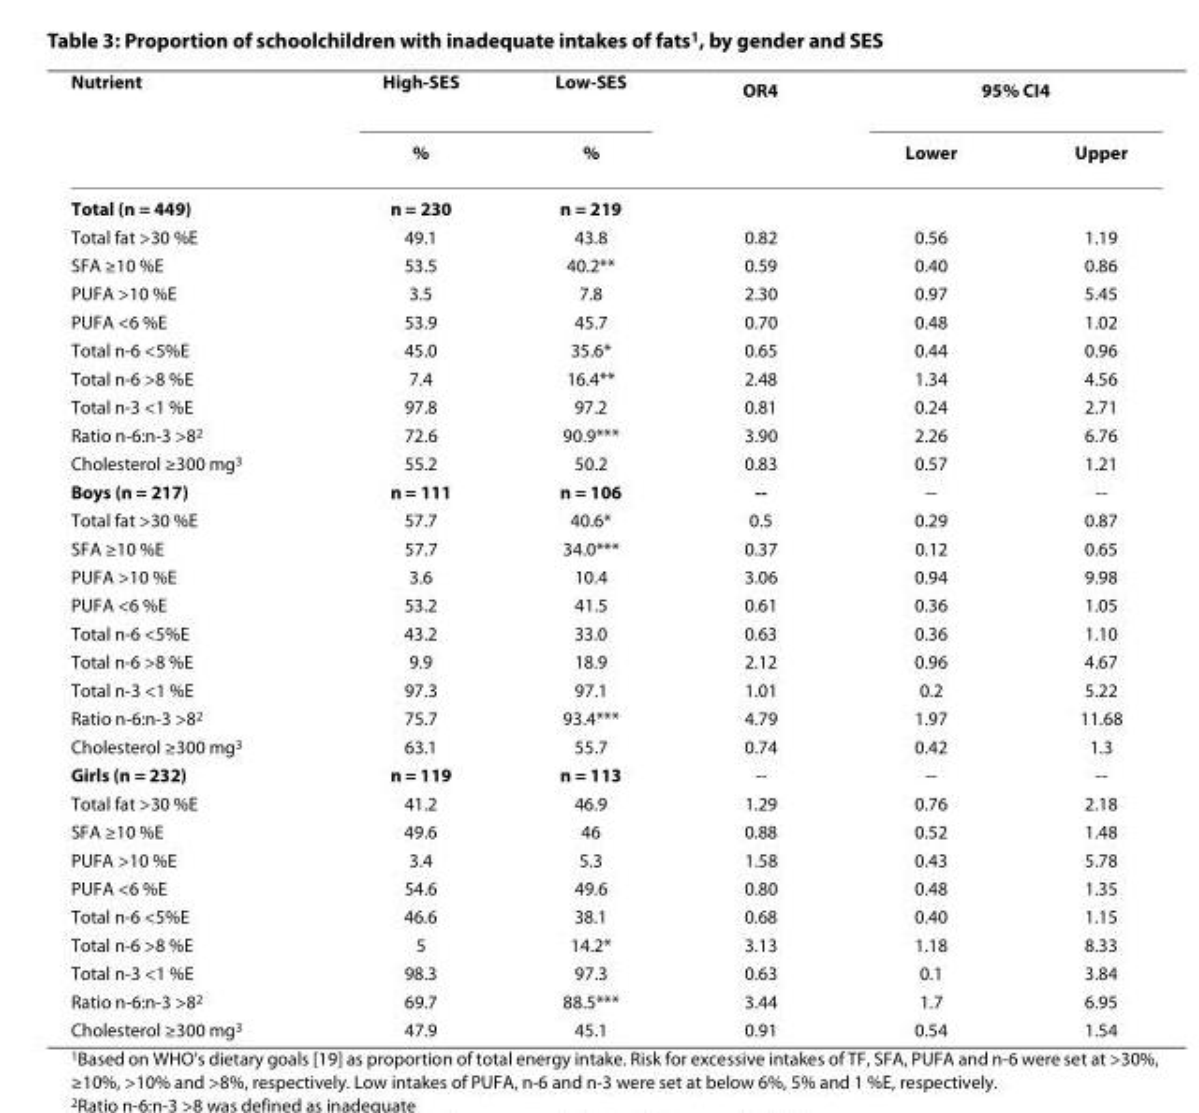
<table><thead><tr><td rowspan="2">Nutrient</td><td rowspan="2">High-SES %</td><td rowspan="2">Low-SES %</td><td rowspan="2">OR<sup>4</sup></td><td colspan="2">95% CI<sup>4</sup></td></tr><tr><td>Lower</td><td>Upper</td></tr></thead><tbody><tr><td>Total (n = 449)</td><td>n = 230</td><td>n = 219</td><td></td><td></td><td></td></tr><tr><td>Total fat &gt;30 %E</td><td>49.1</td><td>43.8</td><td>0.82</td><td>0.56</td><td>1.19</td></tr><tr><td>SFA ≥10 %E</td><td>53.5</td><td>40.2**</td><td>0.59</td><td>0.40</td><td>0.86</td></tr><tr><td>PUFA &gt;10 %E</td><td>3.5</td><td>7.8</td><td>2.30</td><td>0.97</td><td>5.45</td></tr><tr><td>PUFA &lt;6 %E</td><td>53.9</td><td>45.7</td><td>0.70</td><td>0.48</td><td>1.02</td></tr><tr><td>Total n-6 &lt;5%E</td><td>45.0</td><td>35.6*</td><td>0.65</td><td>0.44</td><td>0.96</td></tr><tr><td>Total n-6 &gt;8 %E</td><td>7.4</td><td>16.4**</td><td>2.48</td><td>1.34</td><td>4.56</td></tr><tr><td>Total n-3 &lt;1 %E</td><td>97.8</td><td>97.2</td><td>0.81</td><td>0.24</td><td>2.71</td></tr><tr><td>Ratio n-6:n-3 &gt;8<sup>2</sup></td><td>72.6</td><td>90.9***</td><td>3.90</td><td>2.26</td><td>6.76</td></tr><tr><td>Cholesterol ≥300 mg<sup>3</sup></td><td>55.2</td><td>50.2</td><td>0.83</td><td>0.57</td><td>1.21</td></tr><tr><td>Boys (n = 217)</td><td>n = 111</td><td>n = 106</td><td>--</td><td>--</td><td>--</td></tr><tr><td>Total fat &gt;30 %E</td><td>57.7</td><td>40.6*</td><td>0.5</td><td>0.29</td><td>0.87</td></tr><tr><td>SFA ≥10 %E</td><td>57.7</td><td>34.0***</td><td>0.37</td><td>0.12</td><td>0.65</td></tr><tr><td>PUFA &gt;10 %E</td><td>3.6</td><td>10.4</td><td>3.06</td><td>0.94</td><td>9.98</td></tr><tr><td>PUFA &lt;6 %E</td><td>53.2</td><td>41.5</td><td>0.61</td><td>0.36</td><td>1.05</td></tr><tr><td>Total n-6 &lt;5%E</td><td>43.2</td><td>33.0</td><td>0.63</td><td>0.36</td><td>1.10</td></tr><tr><td>Total n-6 &gt;8 %E</td><td>9.9</td><td>18.9</td><td>2.12</td><td>0.96</td><td>4.67</td></tr><tr><td>Total n-3 &lt;1 %E</td><td>97.3</td><td>97.1</td><td>1.01</td><td>0.2</td><td>5.22</td></tr><tr><td>Ratio n-6:n-3 &gt;8<sup>2</sup></td><td>75.7</td><td>93.4***</td><td>4.79</td><td>1.97</td><td>11.68</td></tr><tr><td>Cholesterol ≥300 mg<sup>3</sup></td><td>63.1</td><td>55.7</td><td>0.74</td><td>0.42</td><td>1.3</td></tr><tr><td>Girls (n = 232)</td><td>n = 119</td><td>n = 113</td><td>--</td><td>--</td><td>--</td></tr><tr><td>Total fat &gt;30 %E</td><td>41.2</td><td>46.9</td><td>1.29</td><td>0.76</td><td>2.18</td></tr><tr><td>SFA ≥10 %E</td><td>49.6</td><td>46</td><td>0.88</td><td>0.52</td><td>1.48</td></tr><tr><td>PUFA &gt;10 %E</td><td>3.4</td><td>5.3</td><td>1.58</td><td>0.43</td><td>5.78</td></tr><tr><td>PUFA &lt;6 %E</td><td>54.6</td><td>49.6</td><td>0.80</td><td>0.48</td><td>1.35</td></tr><tr><td>Total n-6 &lt;5%E</td><td>46.6</td><td>38.1</td><td>0.68</td><td>0.40</td><td>1.15</td></tr><tr><td>Total n-6 &gt;8 %E</td><td>5</td><td>14.2*</td><td>3.13</td><td>1.18</td><td>8.33</td></tr><tr><td>Total n-3 &lt;1 %E</td><td>98.3</td><td>97.3</td><td>0.63</td><td>0.1</td><td>3.84</td></tr><tr><td>Ratio n-6:n-3 &gt;8<sup>2</sup></td><td>69.7</td><td>88.5***</td><td>3.44</td><td>1.7</td><td>6.95</td></tr><tr><td>Cholesterol ≥300 mg<sup>3</sup></td><td>47.9</td><td>45.1</td><td>0.91</td><td>0.54</td><td>1.54</td></tr></tbody></table>